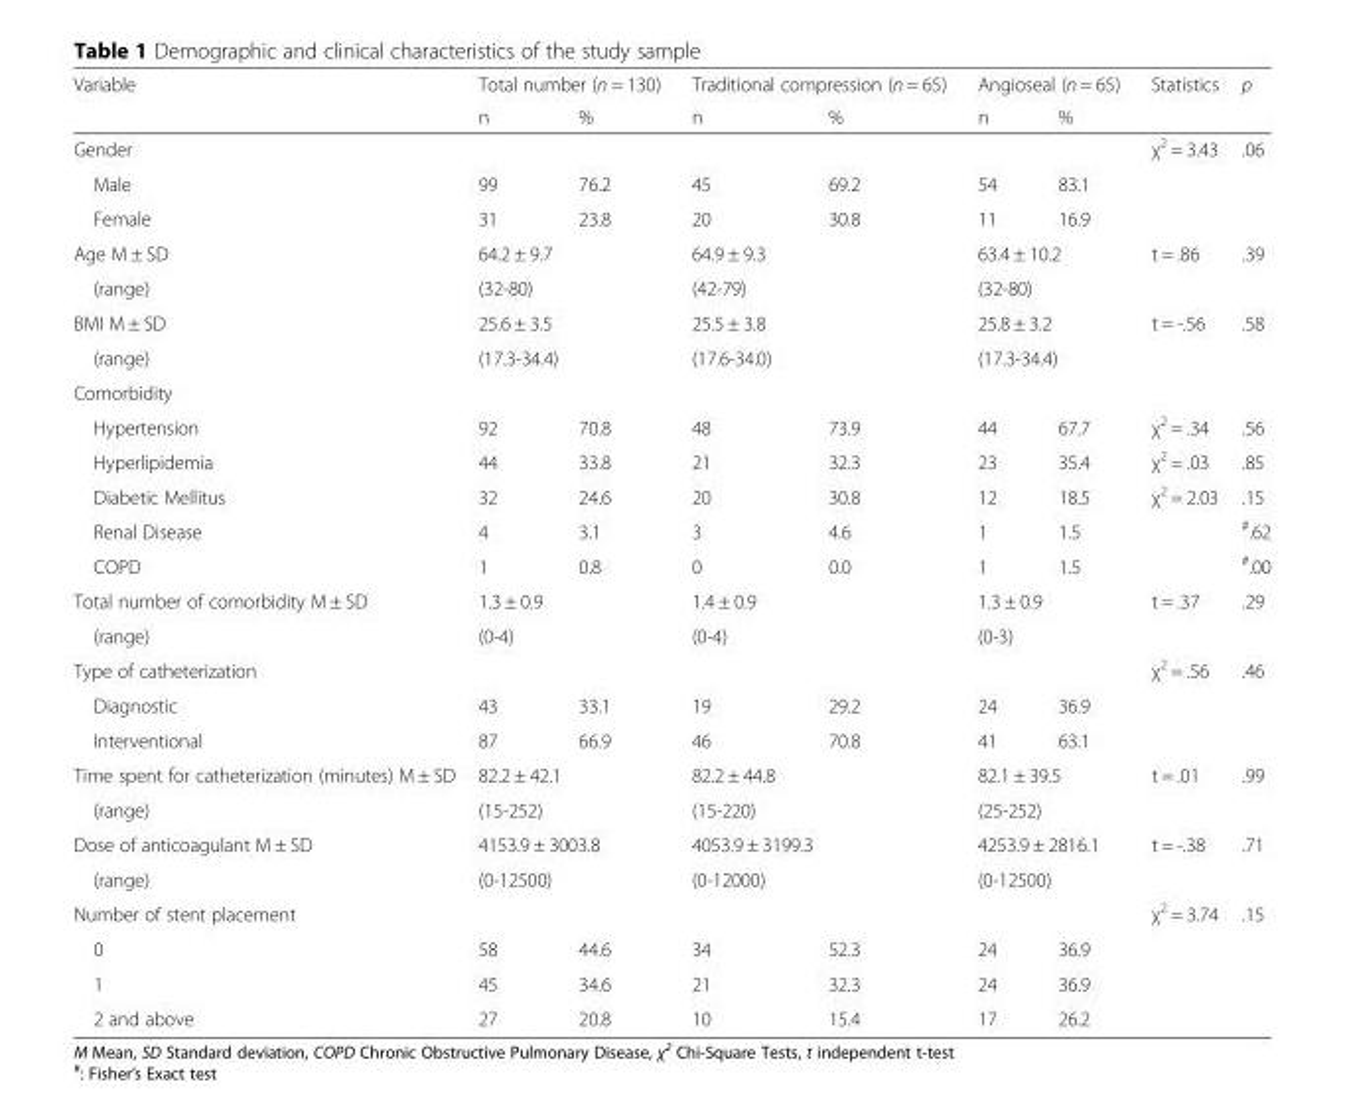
<table><thead><tr><td rowspan="2">Variable</td><td colspan="2">Total number (n = 130)</td><td colspan="2">Traditional compression (n = 65)</td><td colspan="2">Angioseal (n = 65)</td><td rowspan="2">Statistics</td><td rowspan="2">p</td></tr><tr><td>n</td><td>%</td><td>n</td><td>%</td><td>n</td><td>%</td></tr></thead><tbody><tr><td>Gender</td><td></td><td></td><td></td><td></td><td></td><td></td><td>χ<sup>2</sup> = 3.43</td><td>.06</td></tr><tr><td>Male</td><td>99</td><td>76.2</td><td>45</td><td>69.2</td><td>54</td><td>83.1</td><td></td><td></td></tr><tr><td>Female</td><td>31</td><td>23.8</td><td>20</td><td>30.8</td><td>11</td><td>16.9</td><td></td><td></td></tr><tr><td>Age M ± SD</td><td colspan="2">64.2 ± 9.7</td><td colspan="2">64.9 ± 9.3</td><td colspan="2">63.4 ± 10.2</td><td>t = .86</td><td>.39</td></tr><tr><td>(range)</td><td colspan="2">(32-80)</td><td colspan="2">(42-79)</td><td colspan="2">(32-80)</td><td></td><td></td></tr><tr><td>BMI M ± SD</td><td colspan="2">25.6 ± 3.5</td><td colspan="2">25.5 ± 3.8</td><td colspan="2">25.8 ± 3.2</td><td>t = -.56</td><td>.58</td></tr><tr><td>(range)</td><td colspan="2">(17.3-34.4)</td><td colspan="2">(17.6-34.0)</td><td colspan="2">(17.3-34.4)</td><td></td><td></td></tr><tr><td colspan="9">Comorbidity</td></tr><tr><td>Hypertension</td><td>92</td><td>70.8</td><td>48</td><td>73.9</td><td>44</td><td>67.7</td><td>χ<sup>2</sup> = .34</td><td>.56</td></tr><tr><td>Hyperlipidemia</td><td>44</td><td>33.8</td><td>21</td><td>32.3</td><td>23</td><td>35.4</td><td>χ<sup>2</sup> = .03</td><td>.85</td></tr><tr><td>Diabetic Mellitus</td><td>32</td><td>24.6</td><td>20</td><td>30.8</td><td>12</td><td>18.5</td><td>χ<sup>2</sup> = 2.03</td><td>.15</td></tr><tr><td>Renal Disease</td><td>4</td><td>3.1</td><td>3</td><td>4.6</td><td>1</td><td>1.5</td><td></td><td><sup>#</sup>.62</td></tr><tr><td>COPD</td><td>1</td><td>0.8</td><td>0</td><td>0.0</td><td>1</td><td>1.5</td><td></td><td><sup>#</sup>.00</td></tr><tr><td>Total number of comorbidity M ± SD</td><td colspan="2">1.3 ± 0.9</td><td colspan="2">1.4 ± 0.9</td><td colspan="2">1.3 ± 0.9</td><td>t = .37</td><td>.29</td></tr><tr><td>(range)</td><td colspan="2">(0-4)</td><td colspan="2">(0-4)</td><td colspan="2">(0-3)</td><td></td><td></td></tr><tr><td>Type of catheterization</td><td></td><td></td><td></td><td></td><td></td><td></td><td>χ<sup>2</sup> = .56</td><td>.46</td></tr><tr><td>Diagnostic</td><td>43</td><td>33.1</td><td>19</td><td>29.2</td><td>24</td><td>36.9</td><td></td><td></td></tr><tr><td>Interventional</td><td>87</td><td>66.9</td><td>46</td><td>70.8</td><td>41</td><td>63.1</td><td></td><td></td></tr><tr><td>Time spent for catheterization (minutes) M ± SD</td><td colspan="2">82.2 ± 42.1</td><td colspan="2">82.2 ± 44.8</td><td colspan="2">82.1 ± 39.5</td><td>t = .01</td><td>.99</td></tr><tr><td>(range)</td><td colspan="2">(15-252)</td><td colspan="2">(15-220)</td><td colspan="2">(25-252)</td><td></td><td></td></tr><tr><td>Dose of anticoagulant M ± SD</td><td colspan="2">4153.9 ± 3003.8</td><td colspan="2">4053.9 ± 3199.3</td><td colspan="2">4253.9 ± 2816.1</td><td>t = -.38</td><td>.71</td></tr><tr><td>(range)</td><td colspan="2">(0-12500)</td><td colspan="2">(0-12000)</td><td colspan="2">(0-12500)</td><td></td><td></td></tr><tr><td>Number of stent placement</td><td></td><td></td><td></td><td></td><td></td><td></td><td>χ<sup>2</sup> = 3.74</td><td>.15</td></tr><tr><td>0</td><td>58</td><td>44.6</td><td>34</td><td>52.3</td><td>24</td><td>36.9</td><td></td><td></td></tr><tr><td>1</td><td>45</td><td>34.6</td><td>21</td><td>32.3</td><td>24</td><td>36.9</td><td></td><td></td></tr><tr><td>2 and above</td><td>27</td><td>20.8</td><td>10</td><td>15.4</td><td>17</td><td>26.2</td><td></td><td></td></tr></tbody></table>